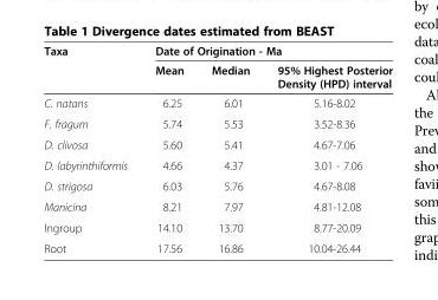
<table><thead><tr><td rowspan="2">Taxa</td><td colspan="3">Date of Origination - Ma</td></tr><tr><td>Mean</td><td>Median</td><td>95% Highest Posterior Density (HPD) interval</td></tr></thead><tbody><tr><td>C. natans</td><td>6.25</td><td>6.01</td><td>5.16-8.02</td></tr><tr><td>F. fragum</td><td>5.74</td><td>5.53</td><td>3.52-8.36</td></tr><tr><td>D. clivosa</td><td>5.60</td><td>5.41</td><td>4.67-7.06</td></tr><tr><td>D. labyrinthiformis</td><td>4.66</td><td>4.37</td><td>3.01 - 7.06</td></tr><tr><td>D. strigosa</td><td>6.03</td><td>5.76</td><td>4.67-8.08</td></tr><tr><td>Manicina</td><td>8.21</td><td>7.97</td><td>4.81-12.08</td></tr><tr><td>Ingroup</td><td>14.10</td><td>13.70</td><td>8.77-20.09</td></tr><tr><td>Root</td><td>17.56</td><td>16.86</td><td>10.04-26.44</td></tr></tbody></table>